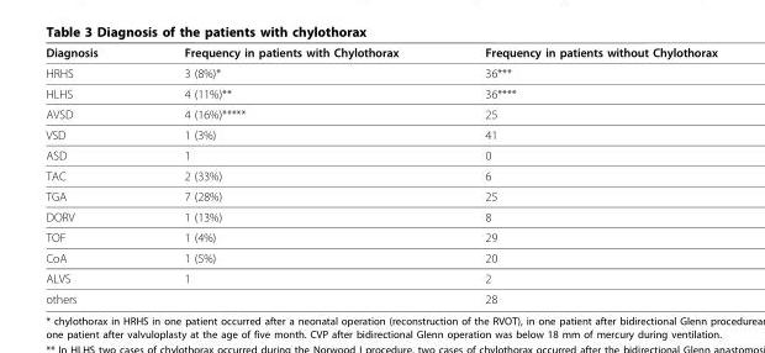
<table><thead><tr><td>Diagnosis</td><td>Frequency in patients with Chylothorax</td><td>Frequency in patients without Chylothorax</td></tr></thead><tbody><tr><td>HRHS</td><td>3 (8%)*</td><td>36***</td></tr><tr><td>HLHS</td><td>4 (11%)**</td><td>36****</td></tr><tr><td>AVSD</td><td>4 (16%)*****</td><td>25</td></tr><tr><td>VSD</td><td>1 (3%)</td><td>41</td></tr><tr><td>ASD</td><td>1</td><td>0</td></tr><tr><td>TAC</td><td>2 (33%)</td><td>6</td></tr><tr><td>TGA</td><td>7 (28%)</td><td>25</td></tr><tr><td>DORV</td><td>1 (13%)</td><td>8</td></tr><tr><td>TOF</td><td>1 (4%)</td><td>29</td></tr><tr><td>CoA</td><td>1 (5%)</td><td>20</td></tr><tr><td>ALVS</td><td>1</td><td>2</td></tr><tr><td>others</td><td></td><td>28</td></tr></tbody></table>